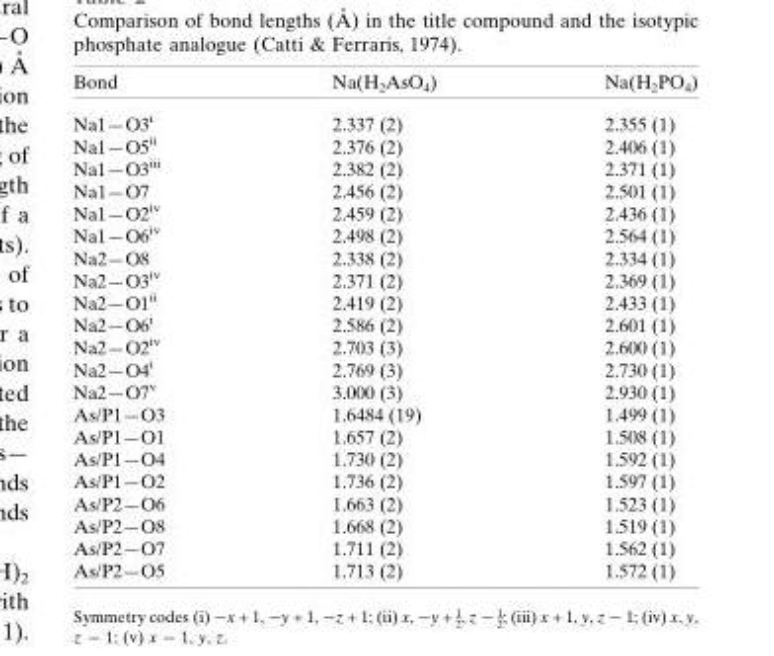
<table><thead><tr><td>Bond</td><td>Na(H<sub>2</sub>AsO<sub>4</sub>)</td><td>Na(H<sub>2</sub>PO<sub>4</sub>)</td></tr></thead><tbody><tr><td>Na1—O3<sup>i</sup></td><td>2.337 (2)</td><td>2.355 (1)</td></tr><tr><td>Na1—O5<sup>ii</sup></td><td>2.376 (2)</td><td>2.406 (1)</td></tr><tr><td>Na1—O3<sup>iii</sup></td><td>2.382 (2)</td><td>2.371 (1)</td></tr><tr><td>Na1—O7</td><td>2.456 (2)</td><td>2.501 (1)</td></tr><tr><td>Na1—O2<sup>iv</sup></td><td>2.459 (2)</td><td>2.436 (1)</td></tr><tr><td>Na1—O6<sup>iv</sup></td><td>2.498 (2)</td><td>2.564 (1)</td></tr><tr><td>Na2—O8</td><td>2.338 (2)</td><td>2.334 (1)</td></tr><tr><td>Na2—O3<sup>iv</sup></td><td>2.371 (2)</td><td>2.369 (1)</td></tr><tr><td>Na2—O1<sup>ii</sup></td><td>2.419 (2)</td><td>2.433 (1)</td></tr><tr><td>Na2—O6<sup>i</sup></td><td>2.586 (2)</td><td>2.601 (1)</td></tr><tr><td>Na2—O2<sup>iv</sup></td><td>2.703 (3)</td><td>2.600 (1)</td></tr><tr><td>Na2—O4<sup>i</sup></td><td>2.769 (3)</td><td>2.730 (1)</td></tr><tr><td>Na2—O7<sup>v</sup></td><td>3.000 (3)</td><td>2.930 (1)</td></tr><tr><td>As/P1—O3</td><td>1.6484 (19)</td><td>1.499 (1)</td></tr><tr><td>As/P1—O1</td><td>1.657 (2)</td><td>1.508 (1)</td></tr><tr><td>As/P1—O4</td><td>1.730 (2)</td><td>1.592 (1)</td></tr><tr><td>As/P1—O2</td><td>1.736 (2)</td><td>1.597 (1)</td></tr><tr><td>As/P2—O6</td><td>1.663 (2)</td><td>1.523 (1)</td></tr><tr><td>As/P2—O8</td><td>1.668 (2)</td><td>1.519 (1)</td></tr><tr><td>As/P2—O7</td><td>1.711 (2)</td><td>1.562 (1)</td></tr><tr><td>As/P2—O5</td><td>1.713 (2)</td><td>1.572 (1)</td></tr></tbody></table>